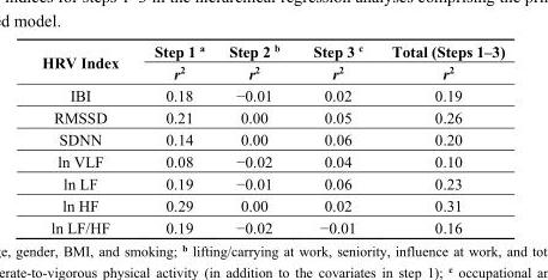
<table><thead><tr><td rowspan="2">HRV Index</td><td rowspan="2">Step 1 <sup>a</sup> r<sup>2</sup></td><td rowspan="2">Step 2 <sup>b</sup> r<sup>2</sup></td><td rowspan="2">Step 3 <sup>c</sup> r<sup>2</sup></td><td rowspan="2">Total (Steps 1–3) r<sup>2</sup></td></tr><tr></tr></thead><tbody><tr><td>IBI</td><td>0.18</td><td>−0.01</td><td>0.02</td><td>0.19</td></tr><tr><td>RMSSD</td><td>0.21</td><td>0.00</td><td>0.05</td><td>0.26</td></tr><tr><td>SDNN</td><td>0.14</td><td>0.00</td><td>0.06</td><td>0.20</td></tr><tr><td>ln VLF</td><td>0.08</td><td>−0.02</td><td>0.04</td><td>0.10</td></tr><tr><td>ln LF</td><td>0.19</td><td>−0.01</td><td>0.06</td><td>0.23</td></tr><tr><td>ln HF</td><td>0.29</td><td>0.00</td><td>0.02</td><td>0.31</td></tr><tr><td>ln LF/HF</td><td>0.19</td><td>−0.02</td><td>−0.01</td><td>0.16</td></tr></tbody></table>